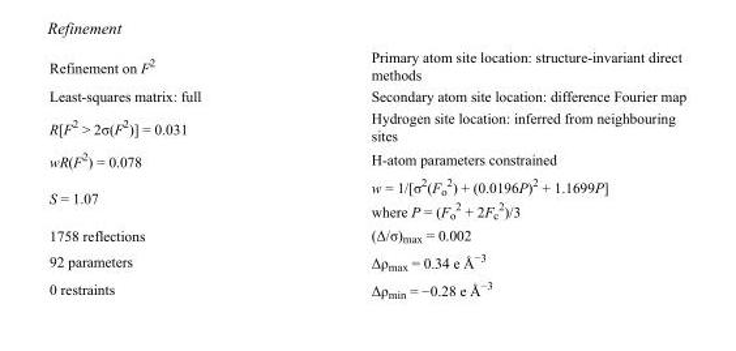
<table><tbody><tr><td>Refinement on F<sup>2</sup></td><td>Primary atom site location: structure-invariant direct methods</td></tr><tr><td>Least-squares matrix: full</td><td>Secondary atom site location: difference Fourier map</td></tr><tr><td>R[F<sup>2</sup> &gt; 2σ(F<sup>2</sup>)] = 0.031</td><td>Hydrogen site location: inferred from neighbouring sites</td></tr><tr><td>wR(F<sup>2</sup>) = 0.078</td><td>H-atom parameters constrained</td></tr><tr><td>S = 1.07</td><td>w = 1/[σ<sup>2</sup>(F<sub>o</sub> <sup>2</sup>) + (0.0196P)<sup>2</sup> + 1.1699P] where P = (F<sub>o</sub> <sup>2</sup> + 2F<sub>c</sub> <sup>2</sup>)/3</td></tr><tr><td>1758 reflections</td><td>(Δ/σ)<sub>max</sub> = 0.002</td></tr><tr><td>92 parameters</td><td>Δρ<sub>max</sub> = 0.34 e Å<sup>−3</sup></td></tr><tr><td>0 restraints</td><td>Δρ<sub>min</sub> = −0.28 e Å<sup>−3</sup></td></tr></tbody></table>